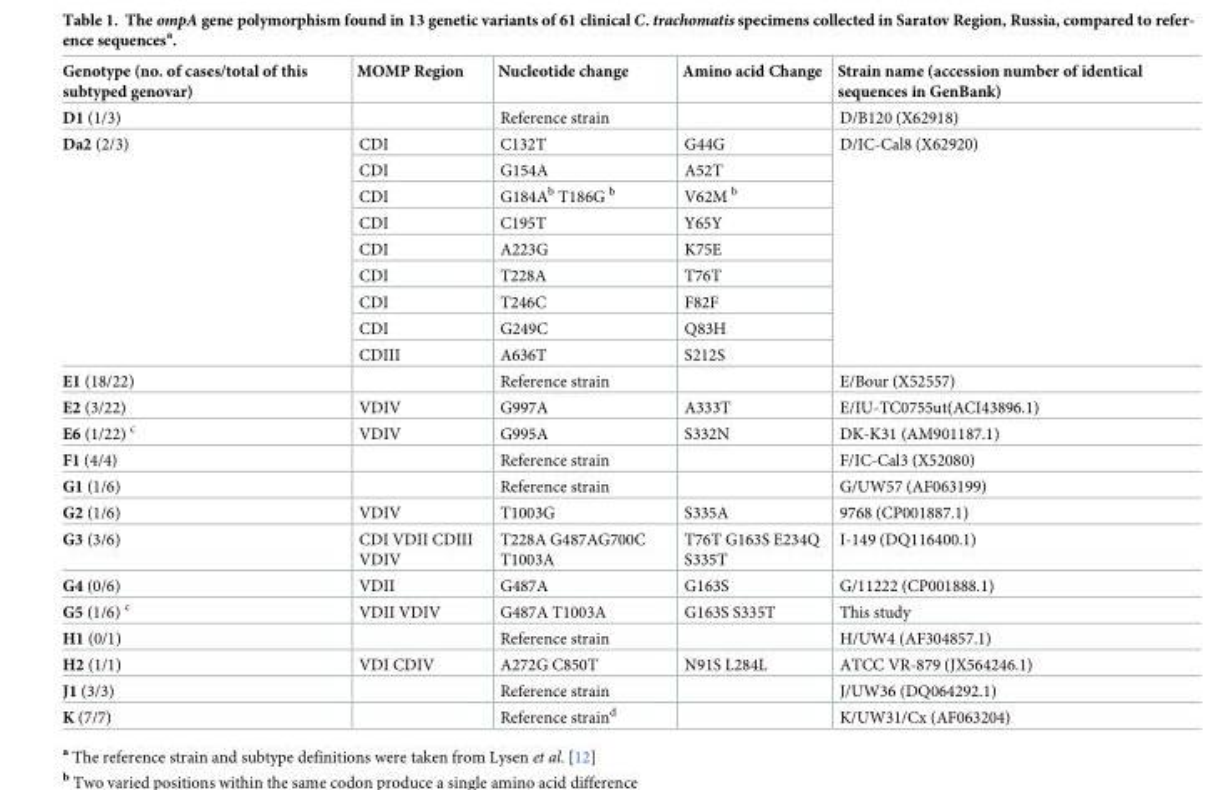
<table><thead><tr><td>Genotype (no. of cases/total of this subtyped genovar)</td><td>MOMP Region</td><td>Nucleotide change</td><td>Amino acid Change</td><td>Strain name (accession number of identical sequences in GenBank)</td></tr></thead><tbody><tr><td>D1 (1/3)</td><td></td><td>Reference strain</td><td></td><td>D/B120 (X62918)</td></tr><tr><td rowspan="9">Da2 (2/3)</td><td>CDI</td><td>C132T</td><td>G44G</td><td rowspan="9">D/IC-Cal8 (X62920)</td></tr><tr><td>CDI</td><td>G154A</td><td>A52T</td></tr><tr><td>CDI</td><td>G184A<sup>b</sup> T186G <sup>b</sup></td><td>V62M <sup>b</sup></td></tr><tr><td>CDI</td><td>C195T</td><td>Y65Y</td></tr><tr><td>CDI</td><td>A223G</td><td>K75E</td></tr><tr><td>CDI</td><td>T228A</td><td>T76T</td></tr><tr><td>CDI</td><td>T246C</td><td>F82F</td></tr><tr><td>CDI</td><td>G249C</td><td>Q83H</td></tr><tr><td>CDIII</td><td>A636T</td><td>S212S</td></tr><tr><td>E1 (18/22)</td><td></td><td>Reference strain</td><td></td><td>E/Bour (X52557)</td></tr><tr><td>E2 (3/22)</td><td>VDIV</td><td>G997A</td><td>A333T</td><td>E/IU-TC0755ut(ACI43896.1)</td></tr><tr><td>E6 (1/22) <sup>c</sup></td><td>VDIV</td><td>G995A</td><td>S332N</td><td>DK-K31 (AM901187.1)</td></tr><tr><td>F1 (4/4)</td><td></td><td>Reference strain</td><td></td><td>F/IC-Cal3 (X52080)</td></tr><tr><td>G1 (1/6)</td><td></td><td>Reference strain</td><td></td><td>G/UW57 (AF063199)</td></tr><tr><td>G2 (1/6)</td><td>VDIV</td><td>T1003G</td><td>S335A</td><td>9768 (CP001887.1)</td></tr><tr><td>G3 (3/6)</td><td>CDI VDII CDIII VDIV</td><td>T228A G487AG700C T1003A</td><td>T76T G163S E234Q S335T</td><td>I-149 (DQ116400.1)</td></tr><tr><td>G4 (0/6)</td><td>VDII</td><td>G487A</td><td>G163S</td><td>G/11222 (CP001888.1)</td></tr><tr><td>G5 (1/6) <sup>c</sup></td><td>VDII VDIV</td><td>G487A T1003A</td><td>G163S S335T</td><td>This study</td></tr><tr><td>H1 (0/1)</td><td></td><td>Reference strain</td><td></td><td>H/UW4 (AF304857.1)</td></tr><tr><td>H2 (1/1)</td><td>VDI CDIV</td><td>A272G C850T</td><td>N91S L284L</td><td>ATCC VR-879 (JX564246.1)</td></tr><tr><td>J1 (3/3)</td><td></td><td>Reference strain</td><td></td><td>J/UW36 (DQ064292.1)</td></tr><tr><td>K (7/7)</td><td></td><td>Reference strain<sup>d</sup></td><td></td><td>K/UW31/Cx (AF063204)</td></tr></tbody></table>